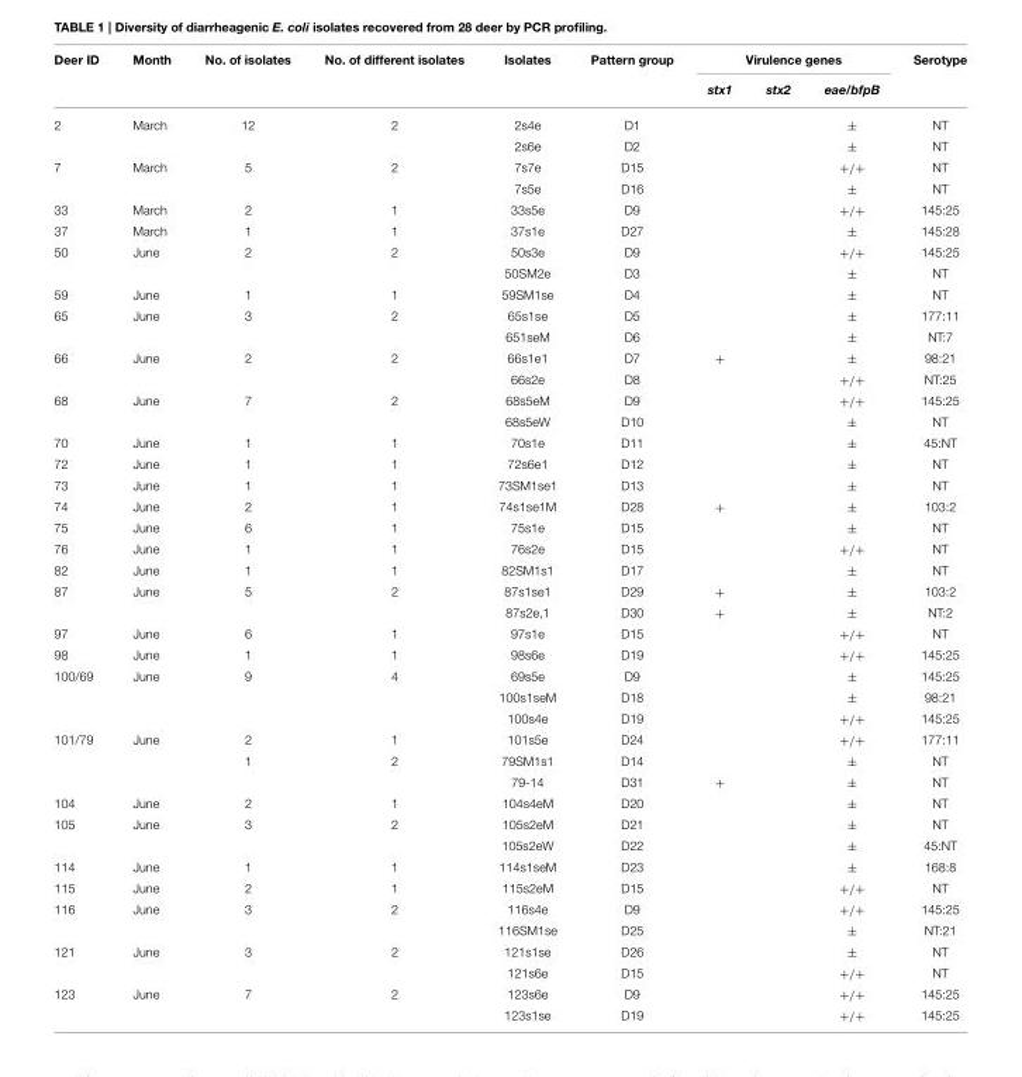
<table><thead><tr><td rowspan="2">Deer ID</td><td rowspan="2">Month</td><td rowspan="2">No. of isolates</td><td rowspan="2">No. of different isolates</td><td rowspan="2">Isolates</td><td rowspan="2">Pattern group</td><td colspan="3">Virulence genes</td><td rowspan="2">Serotype</td></tr><tr><td>stx1</td><td>stx2</td><td>eae/bfpB</td></tr></thead><tbody><tr><td rowspan="2">2</td><td>March</td><td>12</td><td>2</td><td>2s4e</td><td>D1</td><td></td><td></td><td>±</td><td>NT</td></tr><tr><td></td><td></td><td></td><td>2s6e</td><td>D2</td><td></td><td></td><td>±</td><td>NT</td></tr><tr><td rowspan="2">7</td><td>March</td><td>5</td><td>2</td><td>7s7e</td><td>D15</td><td></td><td></td><td>+/+</td><td>NT</td></tr><tr><td></td><td></td><td></td><td>7s5e</td><td>D16</td><td></td><td></td><td>±</td><td>NT</td></tr><tr><td>33</td><td>March</td><td>2</td><td>1</td><td>33s5e</td><td>D9</td><td></td><td></td><td>+/+</td><td>145:25</td></tr><tr><td>37</td><td>March</td><td>1</td><td>1</td><td>37s1e</td><td>D27</td><td></td><td></td><td>±</td><td>145:28</td></tr><tr><td rowspan="2">50</td><td>June</td><td>2</td><td>2</td><td>50s3e</td><td>D9</td><td></td><td></td><td>+/+</td><td>145:25</td></tr><tr><td></td><td></td><td></td><td>50SM2e</td><td>D3</td><td></td><td></td><td>±</td><td>NT</td></tr><tr><td>59</td><td>June</td><td>1</td><td>1</td><td>59SM1se</td><td>D4</td><td></td><td></td><td>±</td><td>NT</td></tr><tr><td rowspan="2">65</td><td>June</td><td>3</td><td>2</td><td>65s1se</td><td>D5</td><td></td><td></td><td>±</td><td>177:11</td></tr><tr><td></td><td></td><td></td><td>651seM</td><td>D6</td><td></td><td></td><td>±</td><td>NT:7</td></tr><tr><td rowspan="2">66</td><td>June</td><td>2</td><td>2</td><td>66s1e1</td><td>D7</td><td>+</td><td></td><td>±</td><td>98:21</td></tr><tr><td></td><td></td><td></td><td>66s2e</td><td>D8</td><td></td><td></td><td>+/+</td><td>NT:25</td></tr><tr><td rowspan="2">68</td><td>June</td><td>7</td><td>2</td><td>68s5eM</td><td>D9</td><td></td><td></td><td>+/+</td><td>145:25</td></tr><tr><td></td><td></td><td></td><td>68s5eW</td><td>D10</td><td></td><td></td><td>±</td><td>NT</td></tr><tr><td>70</td><td>June</td><td>1</td><td>1</td><td>70s1e</td><td>D11</td><td></td><td></td><td>±</td><td>45:NT</td></tr><tr><td>72</td><td>June</td><td>1</td><td>1</td><td>72s6e1</td><td>D12</td><td></td><td></td><td>±</td><td>NT</td></tr><tr><td>73</td><td>June</td><td>1</td><td>1</td><td>73SM1se1</td><td>D13</td><td></td><td></td><td>±</td><td>NT</td></tr><tr><td>74</td><td>June</td><td>2</td><td>1</td><td>74s1se1M</td><td>D28</td><td>+</td><td></td><td>±</td><td>103:2</td></tr><tr><td>75</td><td>June</td><td>6</td><td>1</td><td>75s1e</td><td>D15</td><td></td><td></td><td>±</td><td>NT</td></tr><tr><td>76</td><td>June</td><td>1</td><td>1</td><td>76s2e</td><td>D15</td><td></td><td></td><td>+/+</td><td>NT</td></tr><tr><td>82</td><td>June</td><td>1</td><td>1</td><td>82SM1s1</td><td>D17</td><td></td><td></td><td>±</td><td>NT</td></tr><tr><td rowspan="2">87</td><td>June</td><td>5</td><td>2</td><td>87s1se1</td><td>D29</td><td>+</td><td></td><td>±</td><td>103:2</td></tr><tr><td></td><td></td><td></td><td>87s2e,1</td><td>D30</td><td>+</td><td></td><td>±</td><td>NT:2</td></tr><tr><td>97</td><td>June</td><td>6</td><td>1</td><td>97s1e</td><td>D15</td><td></td><td></td><td>+/+</td><td>NT</td></tr><tr><td>98</td><td>June</td><td>1</td><td>1</td><td>98s6e</td><td>D19</td><td></td><td></td><td>+/+</td><td>145:25</td></tr><tr><td rowspan="3">100/69</td><td>June</td><td>9</td><td>4</td><td>69s5e</td><td>D9</td><td></td><td></td><td>±</td><td>145:25</td></tr><tr><td></td><td></td><td></td><td>100s1seM</td><td>D18</td><td></td><td></td><td>±</td><td>98:21</td></tr><tr><td></td><td></td><td></td><td>100s4e</td><td>D19</td><td></td><td></td><td>+/+</td><td>145:25</td></tr><tr><td rowspan="3">101/79</td><td>June</td><td>2</td><td>1</td><td>101s5e</td><td>D24</td><td></td><td></td><td>+/+</td><td>177:11</td></tr><tr><td></td><td>1</td><td>2</td><td>79SM1s1</td><td>D14</td><td></td><td></td><td>±</td><td>NT</td></tr><tr><td></td><td></td><td></td><td>79-14</td><td>D31</td><td>+</td><td></td><td>±</td><td>NT</td></tr><tr><td>104</td><td>June</td><td>2</td><td>1</td><td>104s4eM</td><td>D20</td><td></td><td></td><td>±</td><td>NT</td></tr><tr><td rowspan="2">105</td><td>June</td><td>3</td><td>2</td><td>105s2eM</td><td>D21</td><td></td><td></td><td>±</td><td>NT</td></tr><tr><td></td><td></td><td></td><td>105s2eW</td><td>D22</td><td></td><td></td><td>±</td><td>45:NT</td></tr><tr><td>114</td><td>June</td><td>1</td><td>1</td><td>114s1seM</td><td>D23</td><td></td><td></td><td>±</td><td>168:8</td></tr><tr><td>115</td><td>June</td><td>2</td><td>1</td><td>115s2eM</td><td>D15</td><td></td><td></td><td>+/+</td><td>NT</td></tr><tr><td rowspan="2">116</td><td>June</td><td>3</td><td>2</td><td>116s4e</td><td>D9</td><td></td><td></td><td>+/+</td><td>145:25</td></tr><tr><td></td><td></td><td></td><td>116SM1se</td><td>D25</td><td></td><td></td><td>±</td><td>NT:21</td></tr><tr><td rowspan="2">121</td><td>June</td><td>3</td><td>2</td><td>121s1se</td><td>D26</td><td></td><td></td><td>±</td><td>NT</td></tr><tr><td></td><td></td><td></td><td>121s6e</td><td>D15</td><td></td><td></td><td>+/+</td><td>NT</td></tr><tr><td rowspan="2">123</td><td>June</td><td>7</td><td>2</td><td>123s6e</td><td>D9</td><td></td><td></td><td>+/+</td><td>145:25</td></tr><tr><td></td><td></td><td></td><td>123s1se</td><td>D19</td><td></td><td></td><td>+/+</td><td>145:25</td></tr></tbody></table>